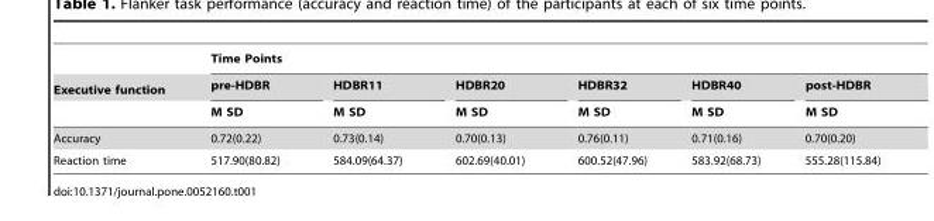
<table><thead><tr><td rowspan="3">Executive function</td><td colspan="6">Time Points</td></tr><tr><td rowspan="2">pre-HDBR M SD</td><td rowspan="2">HDBR11 M SD</td><td rowspan="2">HDBR20 M SD</td><td rowspan="2">HDBR32 M SD</td><td rowspan="2">HDBR40 M SD</td><td rowspan="2">post-HDBR M SD</td></tr><tr></tr></thead><tbody><tr><td>Accuracy</td><td>0.72(0.22)</td><td>0.73(0.14)</td><td>0.70(0.13)</td><td>0.76(0.11)</td><td>0.71(0.16)</td><td>0.70(0.20)</td></tr><tr><td>Reaction time</td><td>517.90(80.82)</td><td>584.09(64.37)</td><td>602.69(40.01)</td><td>600.52(47.96)</td><td>583.92(68.73)</td><td>555.28(115.84)</td></tr></tbody></table>